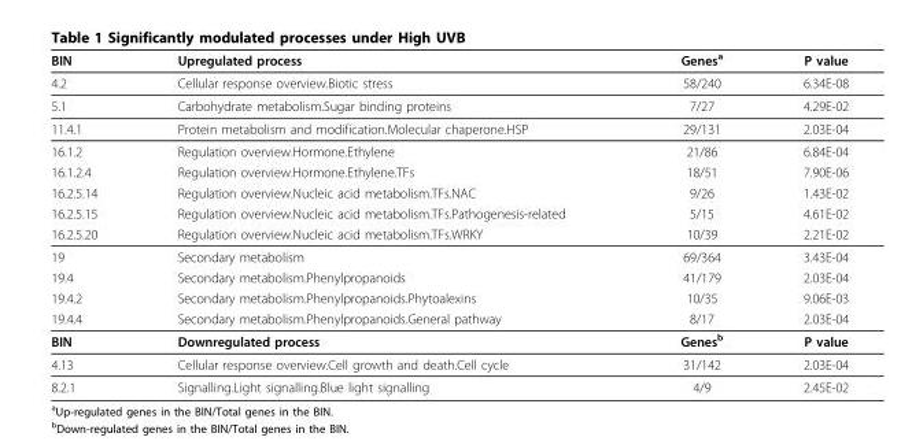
<table><thead><tr><td>BIN</td><td>Upregulated process</td><td>Genes<sup>a</sup></td><td>P value</td></tr></thead><tbody><tr><td>4.2</td><td>Cellular response overview.Biotic stress</td><td>58/240</td><td>6.34E-08</td></tr><tr><td>5.1</td><td>Carbohydrate metabolism.Sugar binding proteins</td><td>7/27</td><td>4.29E-02</td></tr><tr><td>11.4.1</td><td>Protein metabolism and modification.Molecular chaperone.HSP</td><td>29/131</td><td>2.03E-04</td></tr><tr><td>16.1.2</td><td>Regulation overview.Hormone.Ethylene</td><td>21/86</td><td>6.84E-04</td></tr><tr><td>16.1.2.4</td><td>Regulation overview.Hormone.Ethylene.TFs</td><td>18/51</td><td>7.90E-06</td></tr><tr><td>16.2.5.14</td><td>Regulation overview.Nucleic acid metabolism.TFs.NAC</td><td>9/26</td><td>1.43E-02</td></tr><tr><td>16.2.5.15</td><td>Regulation overview.Nucleic acid metabolism.TFs.Pathogenesis-related</td><td>5/15</td><td>4.61E-02</td></tr><tr><td>16.2.5.20</td><td>Regulation overview.Nucleic acid metabolism.TFs.WRKY</td><td>10/39</td><td>2.21E-02</td></tr><tr><td>19</td><td>Secondary metabolism</td><td>69/364</td><td>3.43E-04</td></tr><tr><td>19.4</td><td>Secondary metabolism.Phenylpropanoids</td><td>41/179</td><td>2.03E-04</td></tr><tr><td>19.4.2</td><td>Secondary metabolism.Phenylpropanoids.Phytoalexins</td><td>10/35</td><td>9.06E-03</td></tr><tr><td>19.4.4</td><td>Secondary metabolism.Phenylpropanoids.General pathway</td><td>8/17</td><td>2.03E-04</td></tr><tr><td>BIN</td><td>Downregulated process</td><td>Genes<sup>b</sup></td><td>P value</td></tr><tr><td>4.13</td><td>Cellular response overview.Cell growth and death.Cell cycle</td><td>31/142</td><td>2.03E-04</td></tr><tr><td>8.2.1</td><td>Signalling.Light signalling.Blue light signalling</td><td>4/9</td><td>2.45E-02</td></tr></tbody></table>